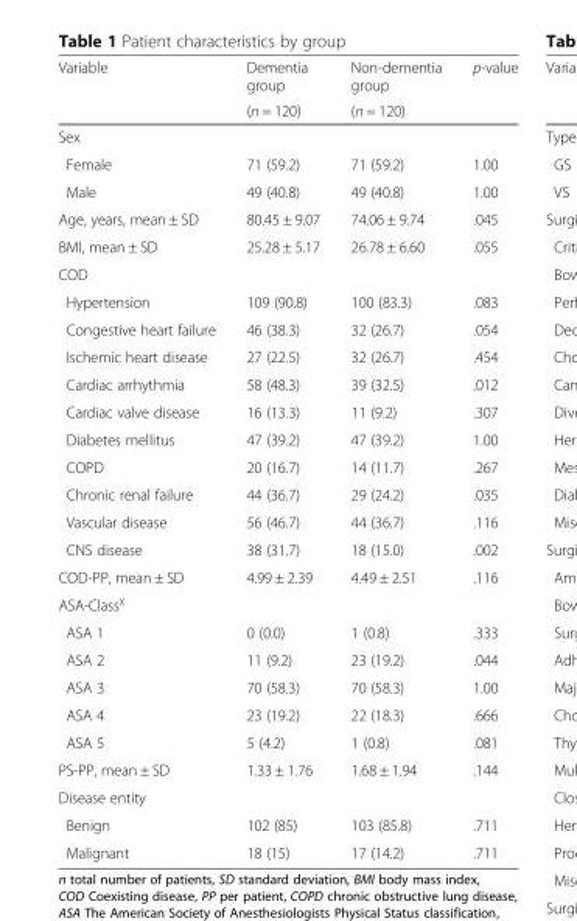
<table><thead><tr><td rowspan="2">Variable</td><td rowspan="2">Dementia group (n = 120)</td><td rowspan="2">Non-dementia group (n = 120)</td><td rowspan="2">p-value</td></tr><tr></tr></thead><tbody><tr><td colspan="4">Sex</td></tr><tr><td>Female</td><td>71 (59.2)</td><td>71 (59.2)</td><td>1.00</td></tr><tr><td>Male</td><td>49 (40.8)</td><td>49 (40.8)</td><td>1.00</td></tr><tr><td>Age, years, mean ± SD</td><td>80.45 ± 9.07</td><td>74.06 ± 9.74</td><td>.045</td></tr><tr><td>BMI, mean ± SD</td><td>25.28 ± 5.17</td><td>26.78 ± 6.60</td><td>.055</td></tr><tr><td colspan="4">COD</td></tr><tr><td>Hypertension</td><td>109 (90.8)</td><td>100 (83.3)</td><td>.083</td></tr><tr><td>Congestive heart failure</td><td>46 (38.3)</td><td>32 (26.7)</td><td>.054</td></tr><tr><td>Ischemic heart disease</td><td>27 (22.5)</td><td>32 (26.7)</td><td>.454</td></tr><tr><td>Cardiac arrhythmia</td><td>58 (48.3)</td><td>39 (32.5)</td><td>.012</td></tr><tr><td>Cardiac valve disease</td><td>16 (13.3)</td><td>11 (9.2)</td><td>.307</td></tr><tr><td>Diabetes mellitus</td><td>47 (39.2)</td><td>47 (39.2)</td><td>1.00</td></tr><tr><td>COPD</td><td>20 (16.7)</td><td>14 (11.7)</td><td>.267</td></tr><tr><td>Chronic renal failure</td><td>44 (36.7)</td><td>29 (24.2)</td><td>.035</td></tr><tr><td>Vascular disease</td><td>56 (46.7)</td><td>44 (36.7)</td><td>.116</td></tr><tr><td>CNS disease</td><td>38 (31.7)</td><td>18 (15.0)</td><td>.002</td></tr><tr><td>COD-PP, mean ± SD</td><td>4.99 ± 2.39</td><td>4.49 ± 2.51</td><td>.116</td></tr><tr><td colspan="4">ASA-Class<sup>χ</sup></td></tr><tr><td>ASA 1</td><td>0 (0.0)</td><td>1 (0.8)</td><td>.333</td></tr><tr><td>ASA 2</td><td>11 (9.2)</td><td>23 (19.2)</td><td>.044</td></tr><tr><td>ASA 3</td><td>70 (58.3)</td><td>70 (58.3)</td><td>1.00</td></tr><tr><td>ASA 4</td><td>23 (19.2)</td><td>22 (18.3)</td><td>.666</td></tr><tr><td>ASA 5</td><td>5 (4.2)</td><td>1 (0.8)</td><td>.081</td></tr><tr><td>PS-PP, mean ± SD</td><td>1.33 ± 1.76</td><td>1.68 ± 1.94</td><td>.144</td></tr><tr><td colspan="4">Disease entity</td></tr><tr><td>Benign</td><td>102 (85)</td><td>103 (85.8)</td><td>.711</td></tr><tr><td>Malignant</td><td>18 (15)</td><td>17 (14.2)</td><td>.711</td></tr></tbody></table>